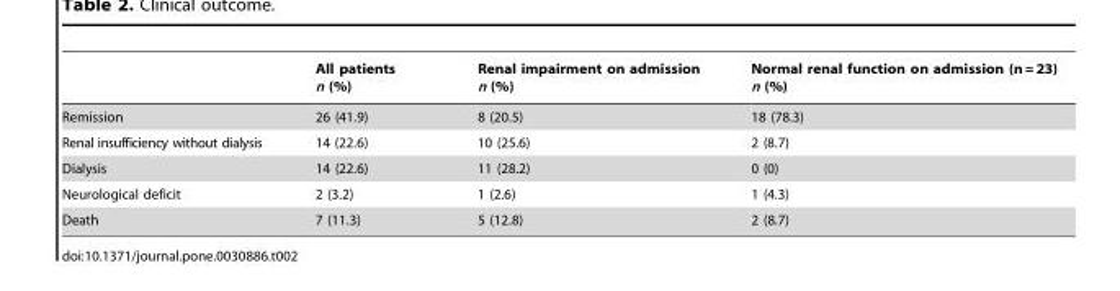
<table><thead><tr><td></td><td>All patients n (%)</td><td>Renal impairment on admission n (%)</td><td>Normal renal function on admission (n = 23) n (%)</td></tr></thead><tbody><tr><td>Remission</td><td>26 (41.9)</td><td>8 (20.5)</td><td>18 (78.3)</td></tr><tr><td>Renal insufficiency without dialysis</td><td>14 (22.6)</td><td>10 (25.6)</td><td>2 (8.7)</td></tr><tr><td>Dialysis</td><td>14 (22.6)</td><td>11 (28.2)</td><td>0 (0)</td></tr><tr><td>Neurological deficit</td><td>2 (3.2)</td><td>1 (2.6)</td><td>1 (4.3)</td></tr><tr><td>Death</td><td>7 (11.3)</td><td>5 (12.8)</td><td>2 (8.7)</td></tr></tbody></table>